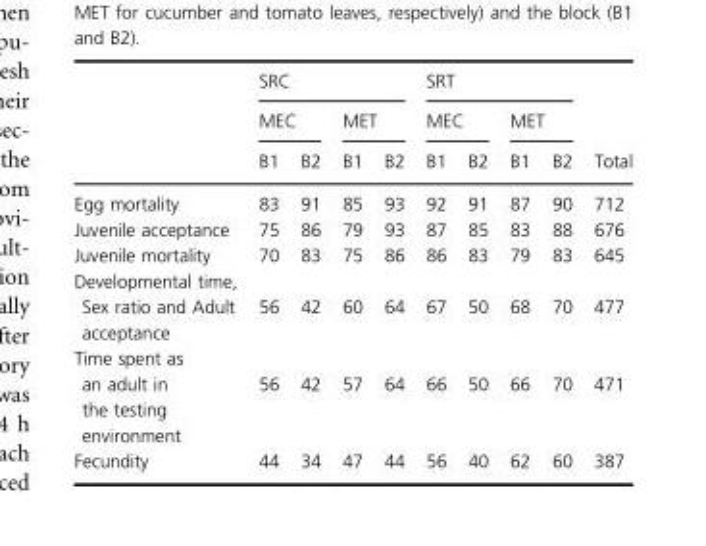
<table><thead><tr><td rowspan="3"></td><td colspan="4">SRC</td><td colspan="4">SRT</td><td rowspan="3">Total</td></tr><tr><td colspan="2">MEC</td><td colspan="2">MET</td><td colspan="2">MEC</td><td colspan="2">MET</td></tr><tr><td>B1</td><td>B2</td><td>B1</td><td>B2</td><td>B1</td><td>B2</td><td>B1</td><td>B2</td></tr></thead><tbody><tr><td>Egg mortality</td><td>83</td><td>91</td><td>85</td><td>93</td><td>92</td><td>91</td><td>87</td><td>90</td><td>712</td></tr><tr><td>Juvenile acceptance</td><td>75</td><td>86</td><td>79</td><td>93</td><td>87</td><td>85</td><td>83</td><td>88</td><td>676</td></tr><tr><td>Juvenile mortality</td><td>70</td><td>83</td><td>75</td><td>86</td><td>86</td><td>83</td><td>79</td><td>83</td><td>645</td></tr><tr><td>Developmental time, Sex ratio and Adult acceptance</td><td>56</td><td>42</td><td>60</td><td>64</td><td>67</td><td>50</td><td>68</td><td>70</td><td>477</td></tr><tr><td>Time spent as an adult in the testing environment</td><td>56</td><td>42</td><td>57</td><td>64</td><td>66</td><td>50</td><td>66</td><td>70</td><td>471</td></tr><tr><td>Fecundity</td><td>44</td><td>34</td><td>47</td><td>44</td><td>56</td><td>40</td><td>62</td><td>60</td><td>387</td></tr></tbody></table>